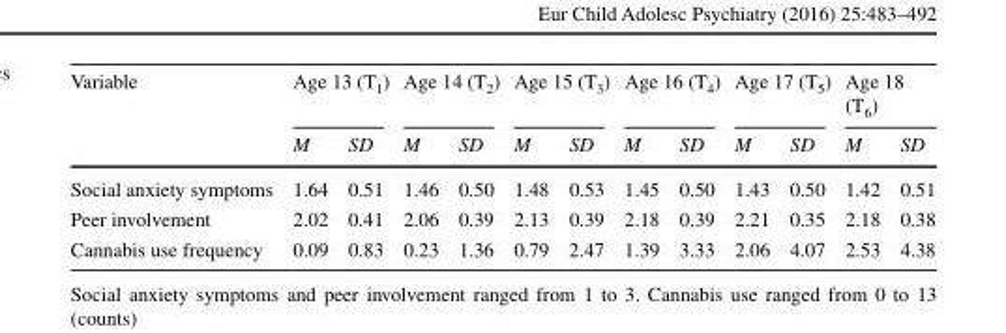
<table><thead><tr><td rowspan="2">Variable</td><td colspan="2">Age 13 (T<sub>1</sub>)</td><td colspan="2">Age 14 (T<sub>2</sub>)</td><td colspan="2">Age 15 (T<sub>3</sub>)</td><td colspan="2">Age 16 (T<sub>4</sub>)</td><td colspan="2">Age 17 (T<sub>5</sub>)</td><td colspan="2">Age 18 (T<sub>6</sub>)</td></tr><tr><td>M</td><td>SD</td><td>M</td><td>SD</td><td>M</td><td>SD</td><td>M</td><td>SD</td><td>M</td><td>SD</td><td>M</td><td>SD</td></tr></thead><tbody><tr><td>Social anxiety symptoms</td><td>1.64</td><td>0.51</td><td>1.46</td><td>0.50</td><td>1.48</td><td>0.53</td><td>1.45</td><td>0.50</td><td>1.43</td><td>0.50</td><td>1.42</td><td>0.51</td></tr><tr><td>Peer involvement</td><td>2.02</td><td>0.41</td><td>2.06</td><td>0.39</td><td>2.13</td><td>0.39</td><td>2.18</td><td>0.39</td><td>2.21</td><td>0.35</td><td>2.18</td><td>0.38</td></tr><tr><td>Cannabis use frequency</td><td>0.09</td><td>0.83</td><td>0.23</td><td>1.36</td><td>0.79</td><td>2.47</td><td>1.39</td><td>3.33</td><td>2.06</td><td>4.07</td><td>2.53</td><td>4.38</td></tr></tbody></table>